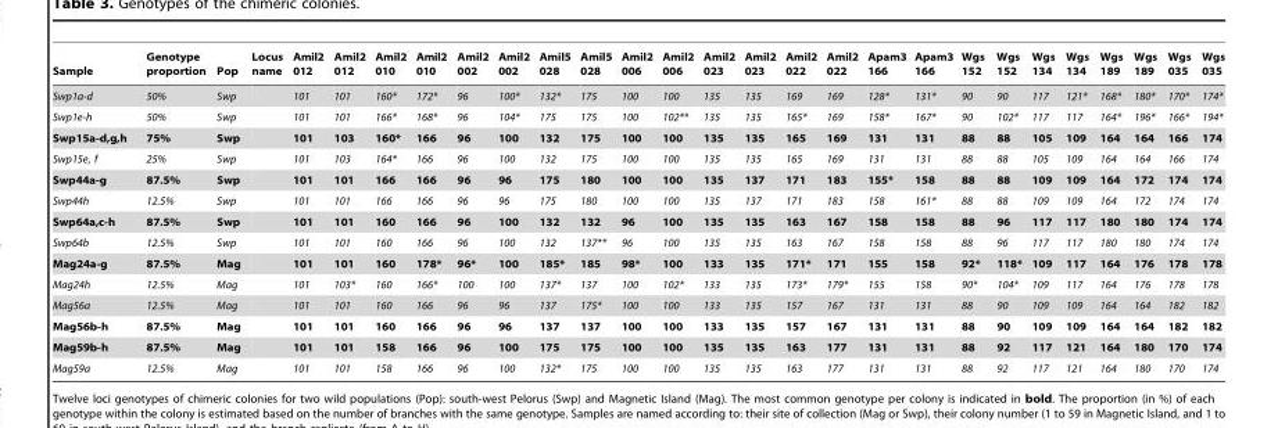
<table><thead><tr><td>Sample</td><td>Genotype proportion</td><td>Pop</td><td>Locus name</td><td>Amil2 012</td><td>Amil2 012</td><td>Amil2 010</td><td>Amil2 010</td><td>Amil2 002</td><td>Amil2 002</td><td>Amil5 028</td><td>Amil5 028</td><td>Amil2 006</td><td>Amil2 006</td><td>Amil2 023</td><td>Amil2 023</td><td>Amil2 022</td><td>Amil2 022</td><td>Apam3 166</td><td>Apam3 166</td><td>Wgs 152</td><td>Wgs 152</td><td>Wgs 134</td><td>Wgs 134</td><td>Wgs 189</td><td>Wgs 189</td><td>Wgs 035</td><td>Wgs 035</td></tr></thead><tbody><tr><td>Swp1a-d</td><td>50%</td><td>Swp</td><td></td><td>101</td><td>101</td><td>160*</td><td>172*</td><td>96</td><td>100*</td><td>132*</td><td>175</td><td>100</td><td>100</td><td>135</td><td>135</td><td>169</td><td>169</td><td>128*</td><td>131*</td><td>90</td><td>90</td><td>117</td><td>121*</td><td>168*</td><td>180*</td><td>170*</td><td>174*</td></tr><tr><td>Swp1e-h</td><td>50%</td><td>Swp</td><td></td><td>101</td><td>101</td><td>166*</td><td>168*</td><td>96</td><td>104*</td><td>175</td><td>175</td><td>100</td><td>102**</td><td>135</td><td>135</td><td>165*</td><td>169</td><td>158*</td><td>167*</td><td>90</td><td>102*</td><td>117</td><td>117</td><td>164*</td><td>196*</td><td>166*</td><td>194*</td></tr><tr><td>Swp15a-d,g,h</td><td>75%</td><td>Swp</td><td></td><td>101</td><td>103</td><td>160*</td><td>166</td><td>96</td><td>100</td><td>132</td><td>175</td><td>100</td><td>100</td><td>135</td><td>135</td><td>165</td><td>169</td><td>131</td><td>131</td><td>88</td><td>88</td><td>105</td><td>109</td><td>164</td><td>164</td><td>166</td><td>174</td></tr><tr><td>Swp15e, f</td><td>25%</td><td>Swp</td><td></td><td>101</td><td>103</td><td>164*</td><td>166</td><td>96</td><td>100</td><td>132</td><td>175</td><td>100</td><td>100</td><td>135</td><td>135</td><td>165</td><td>169</td><td>131</td><td>131</td><td>88</td><td>88</td><td>105</td><td>109</td><td>164</td><td>164</td><td>166</td><td>174</td></tr><tr><td>Swp44a-g</td><td>87.5%</td><td>Swp</td><td></td><td>101</td><td>101</td><td>166</td><td>166</td><td>96</td><td>96</td><td>175</td><td>180</td><td>100</td><td>100</td><td>135</td><td>137</td><td>171</td><td>183</td><td>155*</td><td>158</td><td>88</td><td>88</td><td>109</td><td>109</td><td>164</td><td>172</td><td>174</td><td>174</td></tr><tr><td>Swp44h</td><td>12.5%</td><td>Swp</td><td></td><td>101</td><td>101</td><td>166</td><td>166</td><td>96</td><td>96</td><td>175</td><td>180</td><td>100</td><td>100</td><td>135</td><td>137</td><td>171</td><td>183</td><td>158</td><td>161*</td><td>88</td><td>88</td><td>109</td><td>109</td><td>164</td><td>172</td><td>174</td><td>174</td></tr><tr><td>Swp64a,c-h</td><td>87.5%</td><td>Swp</td><td></td><td>101</td><td>101</td><td>160</td><td>166</td><td>96</td><td>100</td><td>132</td><td>132</td><td>96</td><td>100</td><td>135</td><td>135</td><td>163</td><td>167</td><td>158</td><td>158</td><td>88</td><td>96</td><td>117</td><td>117</td><td>180</td><td>180</td><td>174</td><td>174</td></tr><tr><td>Swp64b</td><td>12.5%</td><td>Swp</td><td></td><td>101</td><td>101</td><td>160</td><td>166</td><td>96</td><td>100</td><td>132</td><td>137**</td><td>96</td><td>100</td><td>135</td><td>135</td><td>163</td><td>167</td><td>158</td><td>158</td><td>88</td><td>96</td><td>117</td><td>117</td><td>180</td><td>180</td><td>174</td><td>174</td></tr><tr><td>Mag24a-g</td><td>87.5%</td><td>Mag</td><td></td><td>101</td><td>101</td><td>160</td><td>178*</td><td>96*</td><td>100</td><td>185*</td><td>185</td><td>98*</td><td>100</td><td>133</td><td>135</td><td>171*</td><td>171</td><td>155</td><td>158</td><td>92*</td><td>118*</td><td>109</td><td>117</td><td>164</td><td>176</td><td>178</td><td>178</td></tr><tr><td>Mag24h</td><td>12.5%</td><td>Mag</td><td></td><td>101</td><td>103*</td><td>160</td><td>166*</td><td>100</td><td>100</td><td>137*</td><td>137</td><td>100</td><td>102*</td><td>133</td><td>135</td><td>173*</td><td>179*</td><td>155</td><td>158</td><td>90*</td><td>104*</td><td>109</td><td>117</td><td>164</td><td>176</td><td>178</td><td>178</td></tr><tr><td>Mag56a</td><td>12.5%</td><td>Mag</td><td></td><td>101</td><td>101</td><td>160</td><td>166</td><td>96</td><td>96</td><td>137</td><td>175*</td><td>100</td><td>100</td><td>133</td><td>135</td><td>157</td><td>167</td><td>131</td><td>131</td><td>88</td><td>90</td><td>109</td><td>109</td><td>164</td><td>164</td><td>182</td><td>182</td></tr><tr><td>Mag56b-h</td><td>87.5%</td><td>Mag</td><td></td><td>101</td><td>101</td><td>160</td><td>166</td><td>96</td><td>96</td><td>137</td><td>137</td><td>100</td><td>100</td><td>133</td><td>135</td><td>157</td><td>167</td><td>131</td><td>131</td><td>88</td><td>90</td><td>109</td><td>109</td><td>164</td><td>164</td><td>182</td><td>182</td></tr><tr><td>Mag59b-h</td><td>87.5%</td><td>Mag</td><td></td><td>101</td><td>101</td><td>158</td><td>166</td><td>96</td><td>100</td><td>175</td><td>175</td><td>100</td><td>100</td><td>135</td><td>135</td><td>163</td><td>177</td><td>131</td><td>131</td><td>88</td><td>92</td><td>117</td><td>121</td><td>164</td><td>180</td><td>170</td><td>174</td></tr><tr><td>Mag59a</td><td>12.5%</td><td>Mag</td><td></td><td>101</td><td>101</td><td>158</td><td>166</td><td>96</td><td>100</td><td>132*</td><td>175</td><td>100</td><td>100</td><td>135</td><td>135</td><td>163</td><td>177</td><td>131</td><td>131</td><td>88</td><td>92</td><td>117</td><td>121</td><td>164</td><td>180</td><td>170</td><td>174</td></tr></tbody></table>